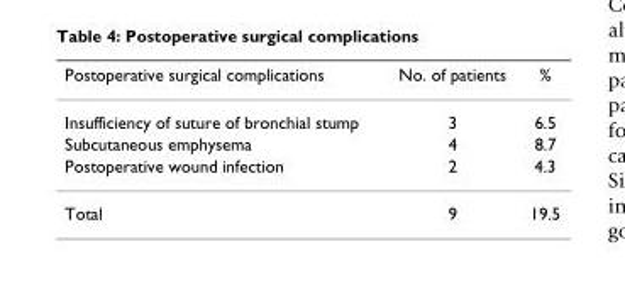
<table><thead><tr><td>Postoperative surgical complications</td><td>No. of patients</td><td>%</td></tr></thead><tbody><tr><td>Insufficiency of suture of bronchial stump</td><td>3</td><td>6.5</td></tr><tr><td>Subcutaneous emphysema</td><td>4</td><td>8.7</td></tr><tr><td>Postoperative wound infection</td><td>2</td><td>4.3</td></tr><tr><td>Total</td><td>9</td><td>19.5</td></tr></tbody></table>